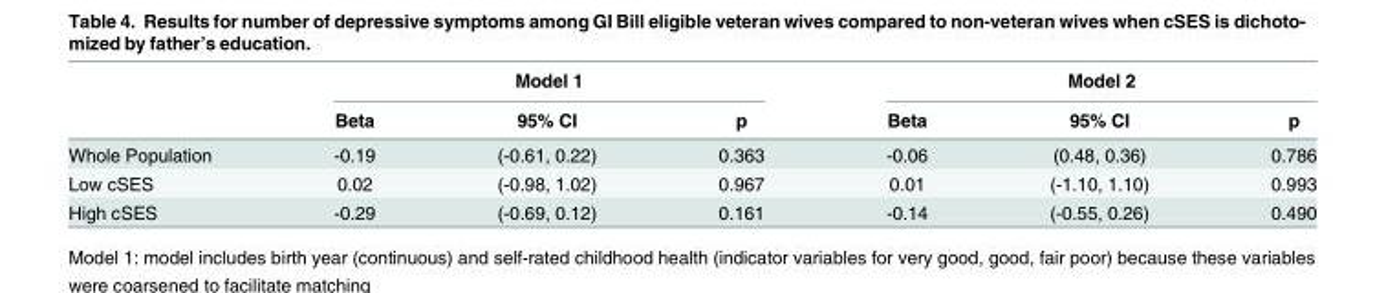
<table><thead><tr><td rowspan="2"></td><td colspan="3">Model 1</td><td colspan="3">Model 2</td></tr><tr><td>Beta</td><td>95% CI</td><td>p</td><td>Beta</td><td>95% CI</td><td>p</td></tr></thead><tbody><tr><td>Whole Population</td><td>-0.19</td><td>(-0.61, 0.22)</td><td>0.363</td><td>-0.06</td><td>(0.48, 0.36)</td><td>0.786</td></tr><tr><td>Low cSES</td><td>0.02</td><td>(-0.98, 1.02)</td><td>0.967</td><td>0.01</td><td>(-1.10, 1.10)</td><td>0.993</td></tr><tr><td>High cSES</td><td>-0.29</td><td>(-0.69, 0.12)</td><td>0.161</td><td>-0.14</td><td>(-0.55, 0.26)</td><td>0.490</td></tr></tbody></table>